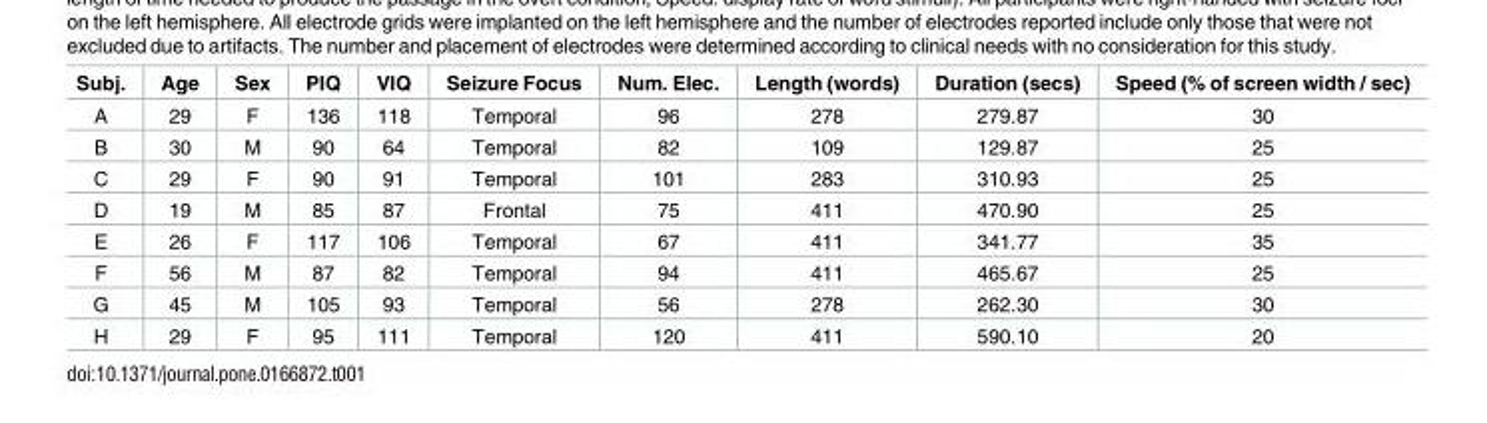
<table><thead><tr><td>Subj.</td><td>Age</td><td>Sex</td><td>PIQ</td><td>VIQ</td><td>Seizure Focus</td><td>Num. Elec.</td><td>Length (words)</td><td>Duration (secs)</td><td>Speed (% of screen width / sec)</td></tr></thead><tbody><tr><td>A</td><td>29</td><td>F</td><td>136</td><td>118</td><td>Temporal</td><td>96</td><td>278</td><td>279.87</td><td>30</td></tr><tr><td>B</td><td>30</td><td>M</td><td>90</td><td>64</td><td>Temporal</td><td>82</td><td>109</td><td>129.87</td><td>25</td></tr><tr><td>C</td><td>29</td><td>F</td><td>90</td><td>91</td><td>Temporal</td><td>101</td><td>283</td><td>310.93</td><td>25</td></tr><tr><td>D</td><td>19</td><td>M</td><td>85</td><td>87</td><td>Frontal</td><td>75</td><td>411</td><td>470.90</td><td>25</td></tr><tr><td>E</td><td>26</td><td>F</td><td>117</td><td>106</td><td>Temporal</td><td>67</td><td>411</td><td>341.77</td><td>35</td></tr><tr><td>F</td><td>56</td><td>M</td><td>87</td><td>82</td><td>Temporal</td><td>94</td><td>411</td><td>465.67</td><td>25</td></tr><tr><td>G</td><td>45</td><td>M</td><td>105</td><td>93</td><td>Temporal</td><td>56</td><td>278</td><td>262.30</td><td>30</td></tr><tr><td>H</td><td>29</td><td>F</td><td>95</td><td>111</td><td>Temporal</td><td>120</td><td>411</td><td>590.10</td><td>20</td></tr></tbody></table>